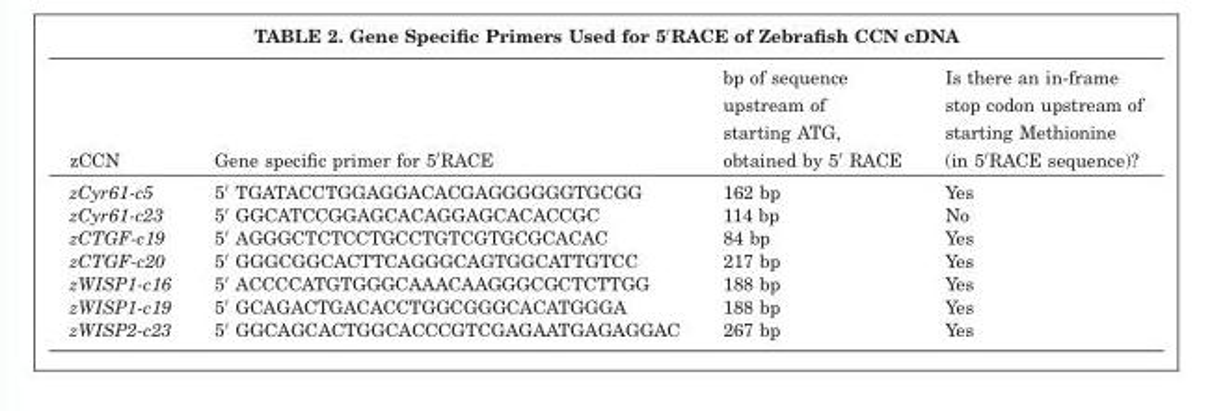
<table><thead><tr><td>zCCN</td><td>Gene specific primer for 5′RACE</td><td>bp of sequence upstream of starting ATG, obtained by 5′ RACE</td><td>Is there an in-frame stop codon upstream of starting Methionine (in 5′RACE sequence)?</td></tr></thead><tbody><tr><td>zCyr61-c5</td><td>5′ TGATACCTGGAGGACACGAGGGGGGTGCGG</td><td>162 bp</td><td>Yes</td></tr><tr><td>zCyr61-c23</td><td>5′ GGCATCCGGAGCACAGGAGCACACCGC</td><td>114 bp</td><td>No</td></tr><tr><td>zCTGF-c19</td><td>5′ AGGGCTCTCCTGCCTGTCGTGCGCACAC</td><td>84 bp</td><td>Yes</td></tr><tr><td>zCTGF-c20</td><td>5′ GGGCGGCACTTCAGGGCAGTGGCATTGTCC</td><td>217 bp</td><td>Yes</td></tr><tr><td>zWISP1-c16</td><td>5′ ACCCCATGTGGGCAAACAAGGGCGCTCTTGG</td><td>188 bp</td><td>Yes</td></tr><tr><td>zWISP1-c19</td><td>5′ GCAGACTGACACCTGGCGGGCACATGGGA</td><td>188 bp</td><td>Yes</td></tr><tr><td>zWISP2-c23</td><td>5′ GGCAGCACTGGCACCCGTCGAGAATGAGAGGAC</td><td>267 bp</td><td>Yes</td></tr></tbody></table>